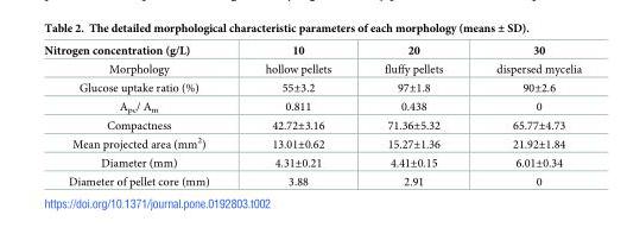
<table><thead><tr><td>Nitrogen concentration (g/L)</td><td>10</td><td>20</td><td>30</td></tr></thead><tbody><tr><td>Morphology</td><td>hollow pellets</td><td>fluffy pellets</td><td>dispersed mycelia</td></tr><tr><td>Glucose uptake ratio (%)</td><td>55±3.2</td><td>97±1.8</td><td>90±2.6</td></tr><tr><td>A<sub>pc</sub>/ A<sub>m</sub></td><td>0.811</td><td>0.438</td><td>0</td></tr><tr><td>Compactness</td><td>42.72±3.16</td><td>71.36±5.32</td><td>65.77±4.73</td></tr><tr><td>Mean projected area (mm<sup>2</sup>)</td><td>13.01±0.62</td><td>15.27±1.36</td><td>21.92±1.84</td></tr><tr><td>Diameter (mm)</td><td>4.31±0.21</td><td>4.41±0.15</td><td>6.01±0.34</td></tr><tr><td>Diameter of pellet core (mm)</td><td>3.88</td><td>2.91</td><td>0</td></tr></tbody></table>